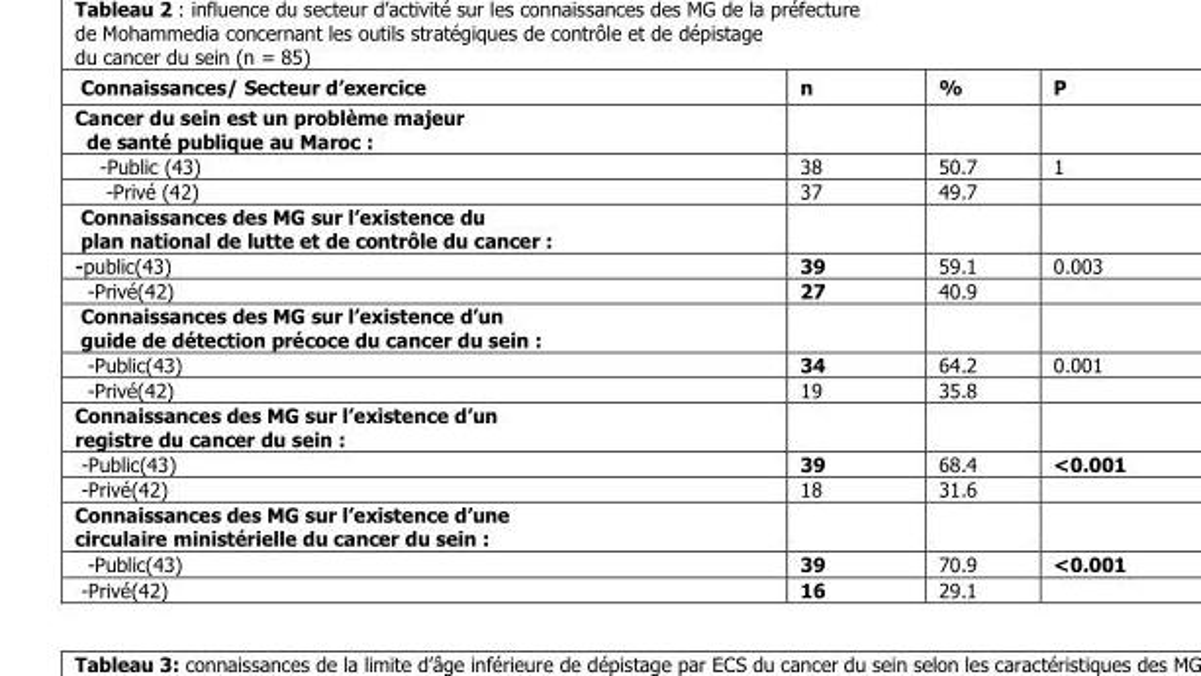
<table><thead><tr><td>Connaissances/ Secteur d’exercice</td><td>n</td><td>%</td><td>P</td></tr></thead><tbody><tr><td colspan="4">Cancer du sein est un problème majeur de santé publique au Maroc :</td></tr><tr><td>-Public (43)</td><td>38</td><td>50.7</td><td>1</td></tr><tr><td>-Privé (42)</td><td>37</td><td>49.7</td><td></td></tr><tr><td colspan="4">Connaissances des MG sur l’existence du plan national de lutte et de contrôle du cancer :</td></tr><tr><td>-public(43)</td><td>39</td><td>59.1</td><td>0.003</td></tr><tr><td>-Privé(42)</td><td>27</td><td>40.9</td><td></td></tr><tr><td colspan="4">Connaissances des MG sur l’existence d’un guide de détection précoce du cancer du sein :</td></tr><tr><td>-Public(43)</td><td>34</td><td>64.2</td><td>0.001</td></tr><tr><td>-Privé(42)</td><td>19</td><td>35.8</td><td></td></tr><tr><td colspan="4">Connaissances des MG sur l’existence d’un registre du cancer du sein :</td></tr><tr><td>-Public(43)</td><td>39</td><td>68.4</td><td>&lt;0.001</td></tr><tr><td>-Privé(42)</td><td>18</td><td>31.6</td><td></td></tr><tr><td colspan="4">Connaissances des MG sur l’existence d’une circulaire ministérielle du cancer du sein :</td></tr><tr><td>-Public(43)</td><td>39</td><td>70.9</td><td>&lt;0.001</td></tr><tr><td>-Privé(42)</td><td>16</td><td>29.1</td><td></td></tr></tbody></table>